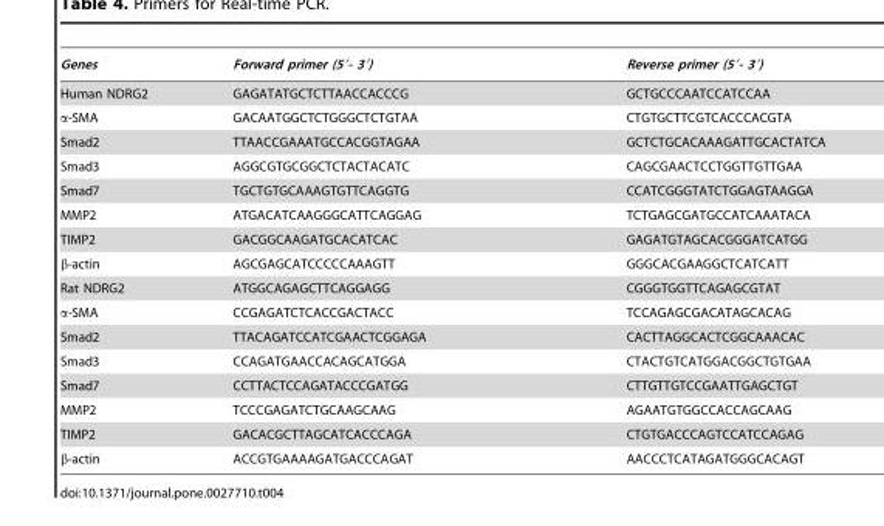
<table><thead><tr><td>Genes</td><td>Forward primer (5′- 3′)</td><td>Reverse primer (5′- 3′)</td></tr></thead><tbody><tr><td>Human NDRG2</td><td>GAGATATGCTCTTAACCACCCG</td><td>GCTGCCCAATCCATCCAA</td></tr><tr><td>α-SMA</td><td>GACAATGGCTCTGGGCTCTGTAA</td><td>CTGTGCTTCGTCACCCACGTA</td></tr><tr><td>Smad2</td><td>TTAACCGAAATGCCACGGTAGAA</td><td>GCTCTGCACAAAGATTGCACTATCA</td></tr><tr><td>Smad3</td><td>AGGCGTGCGGCTCTACTACATC</td><td>CAGCGAACTCCTGGTTGTTGAA</td></tr><tr><td>Smad7</td><td>TGCTGTGCAAAGTGTTCAGGTG</td><td>CCATCGGGTATCTGGAGTAAGGA</td></tr><tr><td>MMP2</td><td>ATGACATCAAGGGCATTCAGGAG</td><td>TCTGAGCGATGCCATCAAATACA</td></tr><tr><td>TIMP2</td><td>GACGGCAAGATGCACATCAC</td><td>GAGATGTAGCACGGGATCATGG</td></tr><tr><td>β-actin</td><td>AGCGAGCATCCCCCAAAGTT</td><td>GGGCACGAAGGCTCATCATT</td></tr><tr><td>Rat NDRG2</td><td>ATGGCAGAGCTTCAGGAGG</td><td>CGGGTGGTTCAGAGCGTAT</td></tr><tr><td>α-SMA</td><td>CCGAGATCTCACCGACTACC</td><td>TCCAGAGCGACATAGCACAG</td></tr><tr><td>Smad2</td><td>TTACAGATCCATCGAACTCGGAGA</td><td>CACTTAGGCACTCGGCAAACAC</td></tr><tr><td>Smad3</td><td>CCAGATGAACCACAGCATGGA</td><td>CTACTGTCATGGACGGCTGTGAA</td></tr><tr><td>Smad7</td><td>CCTTACTCCAGATACCCGATGG</td><td>CTTGTTGTCCGAATTGAGCTGT</td></tr><tr><td>MMP2</td><td>TCCCGAGATCTGCAAGCAAG</td><td>AGAATGTGGCCACCAGCAAG</td></tr><tr><td>TIMP2</td><td>GACACGCTTAGCATCACCCAGA</td><td>CTGTGACCCAGTCCATCCAGAG</td></tr><tr><td>β-actin</td><td>ACCGTGAAAAGATGACCCAGAT</td><td>AACCCTCATAGATGGGCACAGT</td></tr></tbody></table>